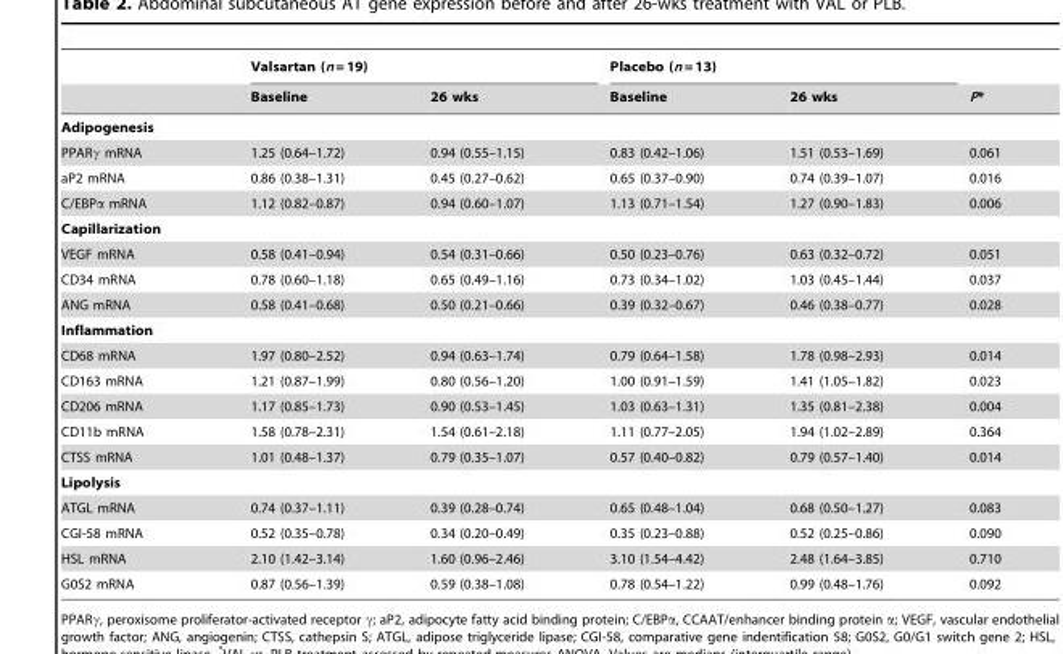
<table><thead><tr><td rowspan="2"></td><td colspan="2">Valsartan (n = 19)</td><td colspan="2">Placebo (n = 13)</td><td rowspan="2">P*</td></tr><tr><td>Baseline</td><td>26 wks</td><td>Baseline</td><td>26 wks</td></tr></thead><tbody><tr><td colspan="6">Adipogenesis</td></tr><tr><td>PPARγ mRNA</td><td>1.25 (0.64–1.72)</td><td>0.94 (0.55–1.15)</td><td>0.83 (0.42–1.06)</td><td>1.51 (0.53–1.69)</td><td>0.061</td></tr><tr><td>aP2 mRNA</td><td>0.86 (0.38–1.31)</td><td>0.45 (0.27–0.62)</td><td>0.65 (0.37–0.90)</td><td>0.74 (0.39–1.07)</td><td>0.016</td></tr><tr><td>C/EBPα mRNA</td><td>1.12 (0.82–0.87)</td><td>0.94 (0.60–1.07)</td><td>1.13 (0.71–1.54)</td><td>1.27 (0.90–1.83)</td><td>0.006</td></tr><tr><td colspan="6">Capillarization</td></tr><tr><td>VEGF mRNA</td><td>0.58 (0.41–0.94)</td><td>0.54 (0.31–0.66)</td><td>0.50 (0.23–0.76)</td><td>0.63 (0.32–0.72)</td><td>0.051</td></tr><tr><td>CD34 mRNA</td><td>0.78 (0.60–1.18)</td><td>0.65 (0.49–1.16)</td><td>0.73 (0.34–1.02)</td><td>1.03 (0.45–1.44)</td><td>0.037</td></tr><tr><td>ANG mRNA</td><td>0.58 (0.41–0.68)</td><td>0.50 (0.21–0.66)</td><td>0.39 (0.32–0.67)</td><td>0.46 (0.38–0.77)</td><td>0.028</td></tr><tr><td colspan="6">Inflammation</td></tr><tr><td>CD68 mRNA</td><td>1.97 (0.80–2.52)</td><td>0.94 (0.63–1.74)</td><td>0.79 (0.64–1.58)</td><td>1.78 (0.98–2.93)</td><td>0.014</td></tr><tr><td>CD163 mRNA</td><td>1.21 (0.87–1.99)</td><td>0.80 (0.56–1.20)</td><td>1.00 (0.91–1.59)</td><td>1.41 (1.05–1.82)</td><td>0.023</td></tr><tr><td>CD206 mRNA</td><td>1.17 (0.85–1.73)</td><td>0.90 (0.53–1.45)</td><td>1.03 (0.63–1.31)</td><td>1.35 (0.81–2.38)</td><td>0.004</td></tr><tr><td>CD11b mRNA</td><td>1.58 (0.78–2.31)</td><td>1.54 (0.61–2.18)</td><td>1.11 (0.77–2.05)</td><td>1.94 (1.02–2.89)</td><td>0.364</td></tr><tr><td>CTSS mRNA</td><td>1.01 (0.48–1.37)</td><td>0.79 (0.35–1.07)</td><td>0.57 (0.40–0.82)</td><td>0.79 (0.57–1.40)</td><td>0.014</td></tr><tr><td colspan="6">Lipolysis</td></tr><tr><td>ATGL mRNA</td><td>0.74 (0.37–1.11)</td><td>0.39 (0.28–0.74)</td><td>0.65 (0.48–1.04)</td><td>0.68 (0.50–1.27)</td><td>0.083</td></tr><tr><td>CGI-58 mRNA</td><td>0.52 (0.35–0.78)</td><td>0.34 (0.20–0.49)</td><td>0.35 (0.23–0.88)</td><td>0.52 (0.25–0.86)</td><td>0.090</td></tr><tr><td>HSL mRNA</td><td>2.10 (1.42–3.14)</td><td>1.60 (0.96–2.46)</td><td>3.10 (1.54–4.42)</td><td>2.48 (1.64–3.85)</td><td>0.710</td></tr><tr><td>G0S2 mRNA</td><td>0.87 (0.56–1.39)</td><td>0.59 (0.38–1.08)</td><td>0.78 (0.54–1.22)</td><td>0.99 (0.48–1.76)</td><td>0.092</td></tr></tbody></table>